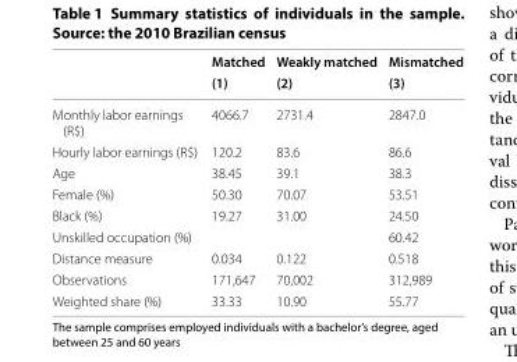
<table><thead><tr><td rowspan="2"></td><td rowspan="2">Matched (1)</td><td rowspan="2">Weakly matched (2)</td><td rowspan="2">Mismatched (3)</td></tr><tr></tr></thead><tbody><tr><td>Monthly labor earnings (R$)</td><td>4066.7</td><td>2731.4</td><td>2847.0</td></tr><tr><td>Hourly labor earnings (R$)</td><td>120.2</td><td>83.6</td><td>86.6</td></tr><tr><td>Age</td><td>38.45</td><td>39.1</td><td>38.3</td></tr><tr><td>Female (%)</td><td>50.30</td><td>70.07</td><td>53.51</td></tr><tr><td>Black (%)</td><td>19.27</td><td>31.00</td><td>24.50</td></tr><tr><td>Unskilled occupation (%)</td><td></td><td></td><td>60.42</td></tr><tr><td>Distance measure</td><td>0.034</td><td>0.122</td><td>0.518</td></tr><tr><td>Observations</td><td>171,647</td><td>70,002</td><td>312,989</td></tr><tr><td>Weighted share (%)</td><td>33.33</td><td>10.90</td><td>55.77</td></tr></tbody></table>